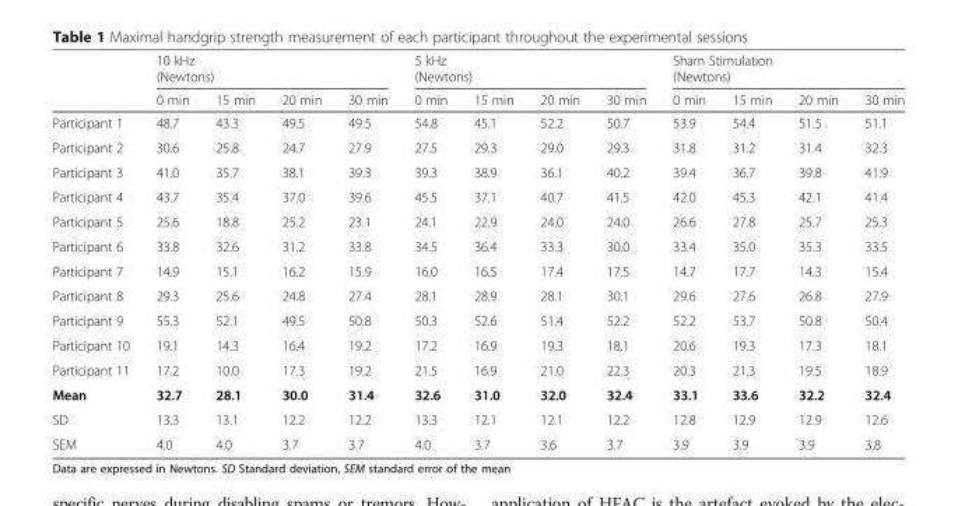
<table><thead><tr><td rowspan="2"></td><td colspan="4">10 kHz (Newtons)</td><td colspan="4">5 kHz (Newtons)</td><td colspan="4">Sham Stimulation (Newtons)</td></tr><tr><td>0 min</td><td>15 min</td><td>20 min</td><td>30 min</td><td>0 min</td><td>15 min</td><td>20 min</td><td>30 min</td><td>0 min</td><td>15 min</td><td>20 min</td><td>30 min</td></tr></thead><tbody><tr><td>Participant 1</td><td>48.7</td><td>43.3</td><td>49.5</td><td>49.5</td><td>54.8</td><td>45.1</td><td>52.2</td><td>50.7</td><td>53.9</td><td>54.4</td><td>51.5</td><td>51.1</td></tr><tr><td>Participant 2</td><td>30.6</td><td>25.8</td><td>24.7</td><td>27.9</td><td>27.5</td><td>29.3</td><td>29.0</td><td>29.3</td><td>31.8</td><td>31.2</td><td>31.4</td><td>32.3</td></tr><tr><td>Participant 3</td><td>41.0</td><td>35.7</td><td>38.1</td><td>39.3</td><td>39.3</td><td>38.9</td><td>36.1</td><td>40.2</td><td>39.4</td><td>36.7</td><td>39.8</td><td>41.9</td></tr><tr><td>Participant 4</td><td>43.7</td><td>35.4</td><td>37.0</td><td>39.6</td><td>45.5</td><td>37.1</td><td>40.7</td><td>41.5</td><td>42.0</td><td>45.3</td><td>42.1</td><td>41.4</td></tr><tr><td>Participant 5</td><td>25.6</td><td>18.8</td><td>25.2</td><td>23.1</td><td>24.1</td><td>22.9</td><td>24.0</td><td>24.0</td><td>26.6</td><td>27.8</td><td>25.7</td><td>25.3</td></tr><tr><td>Participant 6</td><td>33.8</td><td>32.6</td><td>31.2</td><td>33.8</td><td>34.5</td><td>36.4</td><td>33.3</td><td>30.0</td><td>33.4</td><td>35.0</td><td>35.3</td><td>33.5</td></tr><tr><td>Participant 7</td><td>14.9</td><td>15.1</td><td>16.2</td><td>15.9</td><td>16.0</td><td>16.5</td><td>17.4</td><td>17.5</td><td>14.7</td><td>17.7</td><td>14.3</td><td>15.4</td></tr><tr><td>Participant 8</td><td>29.3</td><td>25.6</td><td>24.8</td><td>27.4</td><td>28.1</td><td>28.9</td><td>28.1</td><td>30.1</td><td>29.6</td><td>27.6</td><td>26.8</td><td>27.9</td></tr><tr><td>Participant 9</td><td>55.3</td><td>52.1</td><td>49.5</td><td>50.8</td><td>50.3</td><td>52.6</td><td>51.4</td><td>52.2</td><td>52.2</td><td>53.7</td><td>50.8</td><td>50.4</td></tr><tr><td>Participant 10</td><td>19.1</td><td>14.3</td><td>16.4</td><td>19.2</td><td>17.2</td><td>16.9</td><td>19.3</td><td>18.1</td><td>20.6</td><td>19.3</td><td>17.3</td><td>18.1</td></tr><tr><td>Participant 11</td><td>17.2</td><td>10.0</td><td>17.3</td><td>19.2</td><td>21.5</td><td>16.9</td><td>21.0</td><td>22.3</td><td>20.3</td><td>21.3</td><td>19.5</td><td>18.9</td></tr><tr><td>Mean</td><td>32.7</td><td>28.1</td><td>30.0</td><td>31.4</td><td>32.6</td><td>31.0</td><td>32.0</td><td>32.4</td><td>33.1</td><td>33.6</td><td>32.2</td><td>32.4</td></tr><tr><td>SD</td><td>13.3</td><td>13.1</td><td>12.2</td><td>12.2</td><td>13.3</td><td>12.1</td><td>12.1</td><td>12.2</td><td>12.8</td><td>12.9</td><td>12.9</td><td>12.6</td></tr><tr><td>SEM</td><td>4.0</td><td>4.0</td><td>3.7</td><td>3.7</td><td>4.0</td><td>3.7</td><td>3.6</td><td>3.7</td><td>3.9</td><td>3.9</td><td>3.9</td><td>3.8</td></tr></tbody></table>